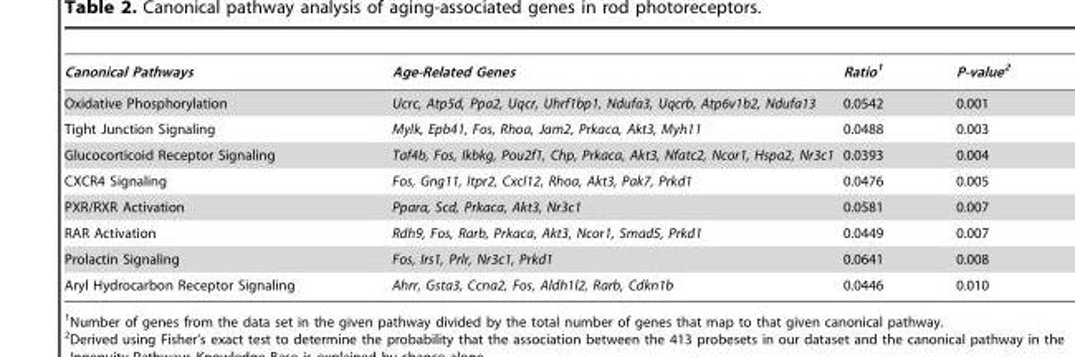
<table><thead><tr><td>Canonical Pathways</td><td>Age-Related Genes</td><td>Ratio1</td><td>P-value2</td></tr></thead><tbody><tr><td>Oxidative Phosphorylation</td><td>Ucrc, Atp5d, Ppa2, Uqcr, Uhrf1bp1, Ndufa3, Uqcrb, Atp6v1b2, Ndufa13</td><td>0.0542</td><td>0.001</td></tr><tr><td>Tight Junction Signaling</td><td>Mylk, Epb41, Fos, Rhoa, Jam2, Prkaca, Akt3, Myh11</td><td>0.0488</td><td>0.003</td></tr><tr><td>Glucocorticoid Receptor Signaling</td><td>Taf4b, Fos, Ikbkg, Pou2f1, Chp, Prkaca, Akt3, Nfatc2, Ncor1, Hspa2, Nr3c1</td><td>0.0393</td><td>0.004</td></tr><tr><td>CXCR4 Signaling</td><td>Fos, Gng11, Itpr2, Cxcl12, Rhoa, Akt3, Pak7, Prkd1</td><td>0.0476</td><td>0.005</td></tr><tr><td>PXR/RXR Activation</td><td>Ppara, Scd, Prkaca, Akt3, Nr3c1</td><td>0.0581</td><td>0.007</td></tr><tr><td>RAR Activation</td><td>Rdh9, Fos, Rarb, Prkaca, Akt3, Ncor1, Smad5, Prkd1</td><td>0.0449</td><td>0.007</td></tr><tr><td>Prolactin Signaling</td><td>Fos, Irs1, Prlr, Nr3c1, Prkd1</td><td>0.0641</td><td>0.008</td></tr><tr><td>Aryl Hydrocarbon Receptor Signaling</td><td>Ahrr, Gsta3, Ccna2, Fos, Aldh1l2, Rarb, Cdkn1b</td><td>0.0446</td><td>0.010</td></tr></tbody></table>